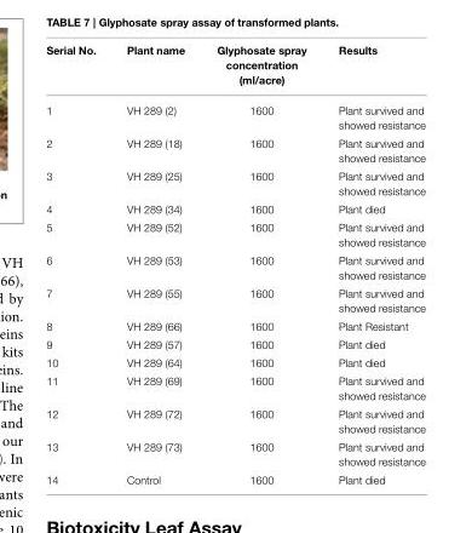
<table><thead><tr><td>Serial No.</td><td>Plant name</td><td>Glyphosate spray concentration (ml/acre)</td><td>Results</td></tr></thead><tbody><tr><td>1</td><td>VH 289 (2)</td><td>1600</td><td>Plant survived and showed resistance</td></tr><tr><td>2</td><td>VH 289 (18)</td><td>1600</td><td>Plant survived and showed resistance</td></tr><tr><td>3</td><td>VH 289 (25)</td><td>1600</td><td>Plant survived and showed resistance</td></tr><tr><td>4</td><td>VH 289 (34)</td><td>1600</td><td>Plant died</td></tr><tr><td>5</td><td>VH 289 (52)</td><td>1600</td><td>Plant survived and showed resistance</td></tr><tr><td>6</td><td>VH 289 (53)</td><td>1600</td><td>Plant survived and showed resistance</td></tr><tr><td>7</td><td>VH 289 (55)</td><td>1600</td><td>Plant survived and showed resistance</td></tr><tr><td>8</td><td>VH 289 (66)</td><td>1600</td><td>Plant Resistant</td></tr><tr><td>9</td><td>VH 289 (57)</td><td>1600</td><td>Plant died</td></tr><tr><td>10</td><td>VH 289 (64)</td><td>1600</td><td>Plant died</td></tr><tr><td>11</td><td>VH 289 (69)</td><td>1600</td><td>Plant survived and showed resistance</td></tr><tr><td>12</td><td>VH 289 (72)</td><td>1600</td><td>Plant survived and showed resistance</td></tr><tr><td>13</td><td>VH 289 (73)</td><td>1600</td><td>Plant survived and showed resistance</td></tr><tr><td>14</td><td>Control</td><td>1600</td><td>Plant died</td></tr></tbody></table>